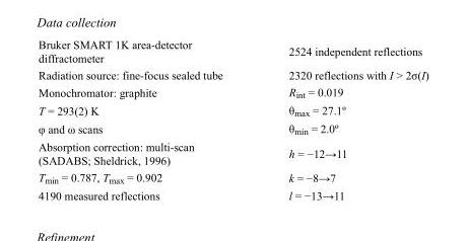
<table><tbody><tr><td>Bruker SMART 1K area-detector diffractometer</td><td>2524 independent reflections</td></tr><tr><td>Radiation source: fine-focus sealed tube</td><td>2320 reflections with I &gt; 2σ(I)</td></tr><tr><td>Monochromator: graphite</td><td>R<sub>int</sub> = 0.019</td></tr><tr><td>T = 293(2) K</td><td>θ<sub>max</sub> = 27.1º</td></tr><tr><td>φ and ω scans</td><td>θ<sub>min</sub> = 2.0º</td></tr><tr><td>Absorption correction: multi-scan (SADABS; Sheldrick, 1996)</td><td>h = −12→11</td></tr><tr><td>T<sub>min</sub> = 0.787, T<sub>max</sub> = 0.902</td><td>k = −8→7</td></tr><tr><td>4190 measured reflections</td><td>l = −13→11</td></tr></tbody></table>